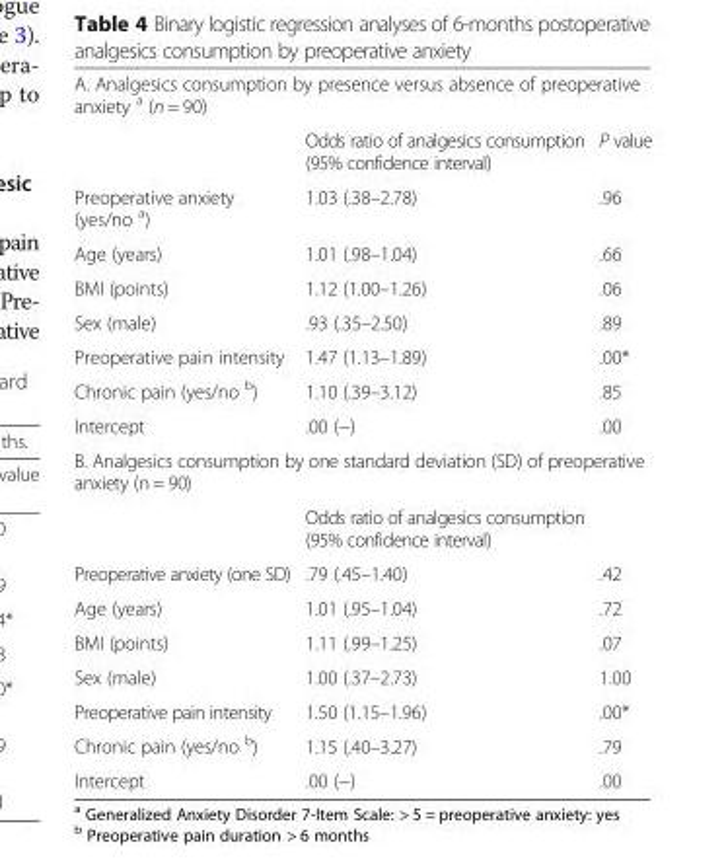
<table><tbody><tr><td colspan="3">A. Analgesics consumption by presence versus absence of preoperative anxiety <sup>a</sup> (n = 90)</td></tr><tr><td></td><td>Odds ratio of analgesics consumption (95% confidence interval)</td><td>P value</td></tr><tr><td>Preoperative anxiety (yes/no <sup>a</sup>)</td><td>1.03 (.38–2.78)</td><td>.96</td></tr><tr><td>Age (years)</td><td>1.01 (.98–1.04)</td><td>.66</td></tr><tr><td>BMI (points)</td><td>1.12 (1.00–1.26)</td><td>.06</td></tr><tr><td>Sex (male)</td><td>.93 (.35–2.50)</td><td>.89</td></tr><tr><td>Preoperative pain intensity</td><td>1.47 (1.13–1.89)</td><td>.00*</td></tr><tr><td>Chronic pain (yes/no <sup>b</sup>)</td><td>1.10 (.39–3.12)</td><td>.85</td></tr><tr><td>Intercept</td><td>.00 (−)</td><td>.00</td></tr><tr><td colspan="3">B. Analgesics consumption by one standard deviation (SD) of preoperative anxiety (n = 90)</td></tr><tr><td></td><td>Odds ratio of analgesics consumption (95% confidence interval)</td><td></td></tr><tr><td>Preoperative anxiety (one SD)</td><td>.79 (.45–1.40)</td><td>.42</td></tr><tr><td>Age (years)</td><td>1.01 (.95–1.04)</td><td>.72</td></tr><tr><td>BMI (points)</td><td>1.11 (.99–1.25)</td><td>.07</td></tr><tr><td>Sex (male)</td><td>1.00 (.37–2.73)</td><td>1.00</td></tr><tr><td>Preoperative pain intensity</td><td>1.50 (1.15–1.96)</td><td>.00*</td></tr><tr><td>Chronic pain (yes/no <sup>b</sup>)</td><td>1.15 (.40–3.27)</td><td>.79</td></tr><tr><td>Intercept</td><td>.00 (−)</td><td>.00</td></tr></tbody></table>